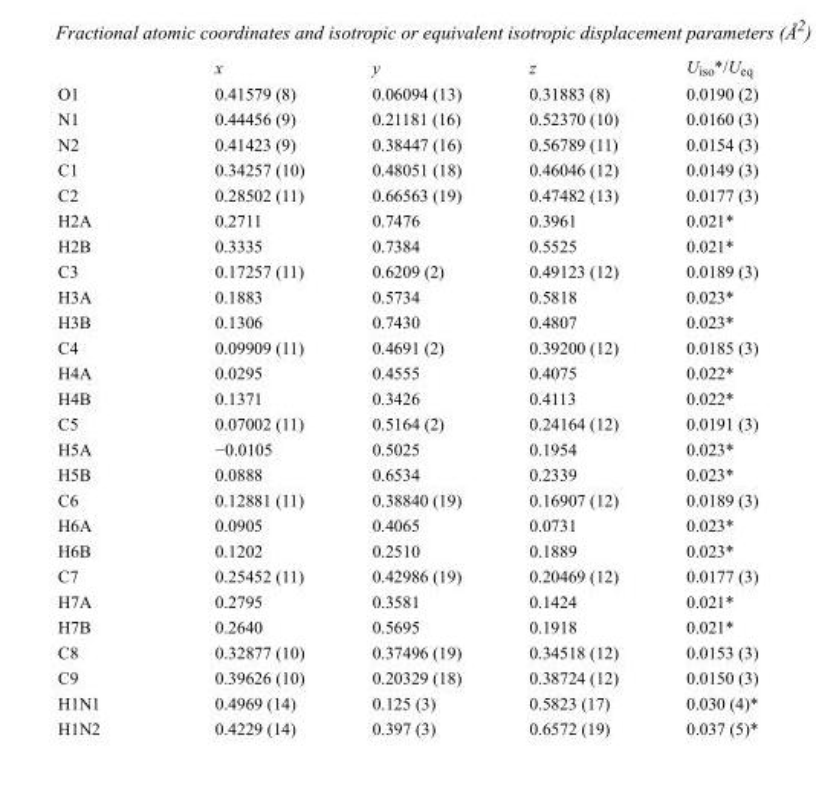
<table><thead><tr><td></td><td>x</td><td>y</td><td>z</td><td>U<sub>iso</sub>*/U<sub>eq</sub></td></tr></thead><tbody><tr><td>O1</td><td>0.41579 (8)</td><td>0.06094 (13)</td><td>0.31883 (8)</td><td>0.0190 (2)</td></tr><tr><td>N1</td><td>0.44456 (9)</td><td>0.21181 (16)</td><td>0.52370 (10)</td><td>0.0160 (3)</td></tr><tr><td>N2</td><td>0.41423 (9)</td><td>0.38447 (16)</td><td>0.56789 (11)</td><td>0.0154 (3)</td></tr><tr><td>C1</td><td>0.34257 (10)</td><td>0.48051 (18)</td><td>0.46046 (12)</td><td>0.0149 (3)</td></tr><tr><td>C2</td><td>0.28502 (11)</td><td>0.66563 (19)</td><td>0.47482 (13)</td><td>0.0177 (3)</td></tr><tr><td>H2A</td><td>0.2711</td><td>0.7476</td><td>0.3961</td><td>0.021*</td></tr><tr><td>H2B</td><td>0.3335</td><td>0.7384</td><td>0.5525</td><td>0.021*</td></tr><tr><td>C3</td><td>0.17257 (11)</td><td>0.6209 (2)</td><td>0.49123 (12)</td><td>0.0189 (3)</td></tr><tr><td>H3A</td><td>0.1883</td><td>0.5734</td><td>0.5818</td><td>0.023*</td></tr><tr><td>H3B</td><td>0.1306</td><td>0.7430</td><td>0.4807</td><td>0.023*</td></tr><tr><td>C4</td><td>0.09909 (11)</td><td>0.4691 (2)</td><td>0.39200 (12)</td><td>0.0185 (3)</td></tr><tr><td>H4A</td><td>0.0295</td><td>0.4555</td><td>0.4075</td><td>0.022*</td></tr><tr><td>H4B</td><td>0.1371</td><td>0.3426</td><td>0.4113</td><td>0.022*</td></tr><tr><td>C5</td><td>0.07002 (11)</td><td>0.5164 (2)</td><td>0.24164 (12)</td><td>0.0191 (3)</td></tr><tr><td>H5A</td><td>−0.0105</td><td>0.5025</td><td>0.1954</td><td>0.023*</td></tr><tr><td>H5B</td><td>0.0888</td><td>0.6534</td><td>0.2339</td><td>0.023*</td></tr><tr><td>C6</td><td>0.12881 (11)</td><td>0.38840 (19)</td><td>0.16907 (12)</td><td>0.0189 (3)</td></tr><tr><td>H6A</td><td>0.0905</td><td>0.4065</td><td>0.0731</td><td>0.023*</td></tr><tr><td>H6B</td><td>0.1202</td><td>0.2510</td><td>0.1889</td><td>0.023*</td></tr><tr><td>C7</td><td>0.25452 (11)</td><td>0.42986 (19)</td><td>0.20469 (12)</td><td>0.0177 (3)</td></tr><tr><td>H7A</td><td>0.2795</td><td>0.3581</td><td>0.1424</td><td>0.021*</td></tr><tr><td>H7B</td><td>0.2640</td><td>0.5695</td><td>0.1918</td><td>0.021*</td></tr><tr><td>C8</td><td>0.32877 (10)</td><td>0.37496 (19)</td><td>0.34518 (12)</td><td>0.0153 (3)</td></tr><tr><td>C9</td><td>0.39626 (10)</td><td>0.20329 (18)</td><td>0.38724 (12)</td><td>0.0150 (3)</td></tr><tr><td>H1N1</td><td>0.4969 (14)</td><td>0.125 (3)</td><td>0.5823 (17)</td><td>0.030 (4)*</td></tr><tr><td>H1N2</td><td>0.4229 (14)</td><td>0.397 (3)</td><td>0.6572 (19)</td><td>0.037 (5)*</td></tr></tbody></table>